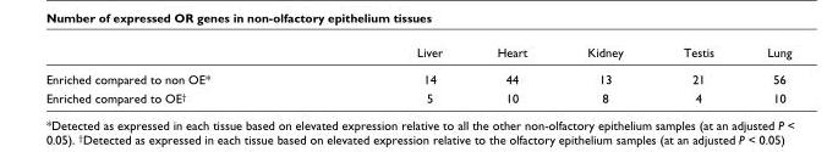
<table><thead><tr><td></td><td>Liver</td><td>Heart</td><td>Kidney</td><td>Testis</td><td>Lung</td></tr></thead><tbody><tr><td>Enriched compared to non OE*</td><td>14</td><td>44</td><td>13</td><td>21</td><td>56</td></tr><tr><td>Enriched compared to OE<sup>†</sup></td><td>5</td><td>10</td><td>8</td><td>4</td><td>10</td></tr></tbody></table>